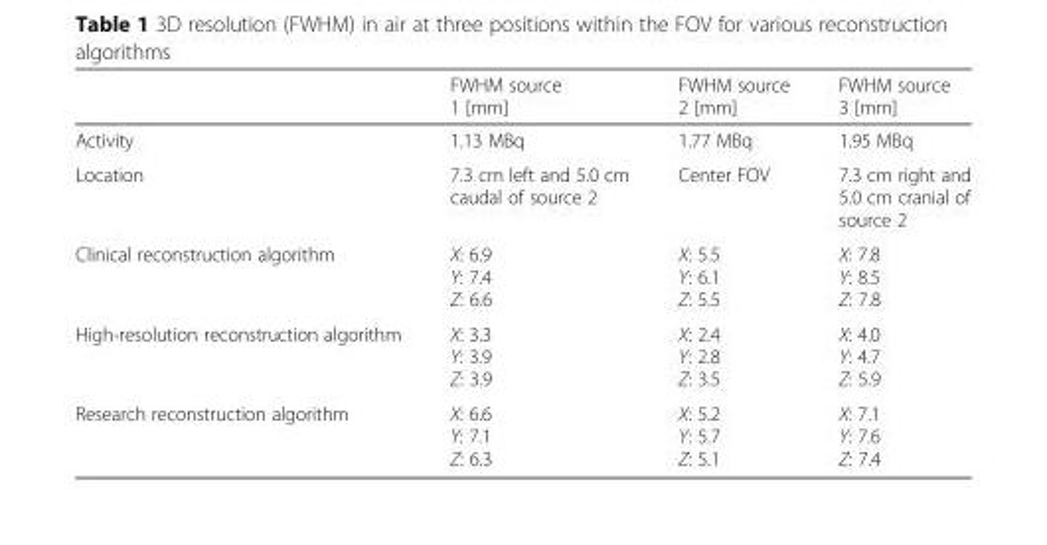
<table><thead><tr><td></td><td>FWHM source 1 [mm]</td><td>FWHM source 2 [mm]</td><td>FWHM source 3 [mm]</td></tr></thead><tbody><tr><td>Activity</td><td>1.13 MBq</td><td>1.77 MBq</td><td>1.95 MBq</td></tr><tr><td>Location</td><td>7.3 cm left and 5.0 cm caudal of source 2</td><td>Center FOV</td><td>7.3 cm right and 5.0 cm cranial of source 2</td></tr><tr><td>Clinical reconstruction algorithm</td><td>X: 6.9 Y: 7.4 Z: 6.6</td><td>X: 5.5 Y: 6.1 Z: 5.5</td><td>X: 7.8 Y: 8.5 Z: 7.8</td></tr><tr><td>High-resolution reconstruction algorithm</td><td>X: 3.3 Y: 3.9 Z: 3.9</td><td>X: 2.4 Y: 2.8 Z: 3.5</td><td>X: 4.0 Y: 4.7 Z: 5.9</td></tr><tr><td>Research reconstruction algorithm</td><td>X: 6.6 Y: 7.1 Z: 6.3</td><td>X: 5.2 Y: 5.7 Z: 5.1</td><td>X: 7.1 Y: 7.6 Z: 7.4</td></tr></tbody></table>